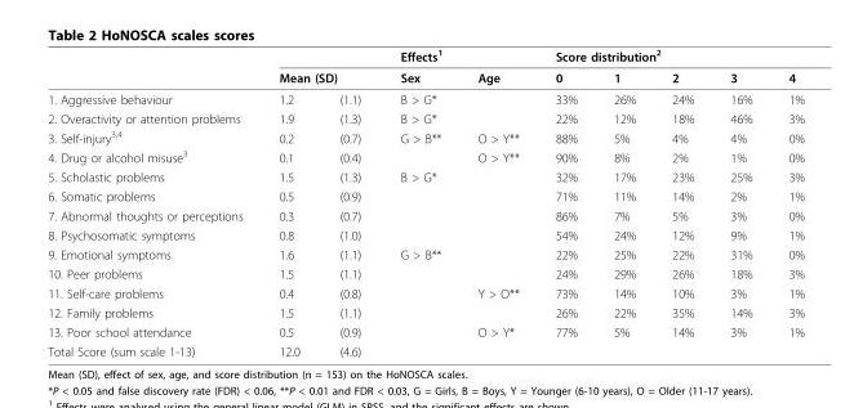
<table><thead><tr><td rowspan="2"></td><td></td><td></td><td colspan="2">Effects<sup>1</sup></td><td colspan="5">Score distribution<sup>2</sup></td></tr><tr><td colspan="2">Mean (SD)</td><td>Sex</td><td>Age</td><td>0</td><td>1</td><td>2</td><td>3</td><td>4</td></tr></thead><tbody><tr><td>1. Aggressive behaviour</td><td>1.2</td><td>(1.1)</td><td>B &gt; G*</td><td></td><td>33%</td><td>26%</td><td>24%</td><td>16%</td><td>1%</td></tr><tr><td>2. Overactivity or attention problems</td><td>1.9</td><td>(1.3)</td><td>B &gt; G*</td><td></td><td>22%</td><td>12%</td><td>18%</td><td>46%</td><td>3%</td></tr><tr><td>3. Self-injury<sup>3,4</sup></td><td>0.2</td><td>(0.7)</td><td>G &gt; B**</td><td>O &gt; Y**</td><td>88%</td><td>5%</td><td>4%</td><td>4%</td><td>0%</td></tr><tr><td>4. Drug or alcohol misuse<sup>3</sup></td><td>0.1</td><td>(0.4)</td><td></td><td>O &gt; Y**</td><td>90%</td><td>8%</td><td>2%</td><td>1%</td><td>0%</td></tr><tr><td>5. Scholastic problems</td><td>1.5</td><td>(1.3)</td><td>B &gt; G*</td><td></td><td>32%</td><td>17%</td><td>23%</td><td>25%</td><td>3%</td></tr><tr><td>6. Somatic problems</td><td>0.5</td><td>(0.9)</td><td></td><td></td><td>71%</td><td>11%</td><td>14%</td><td>2%</td><td>1%</td></tr><tr><td>7. Abnormal thoughts or perceptions</td><td>0.3</td><td>(0.7)</td><td></td><td></td><td>86%</td><td>7%</td><td>5%</td><td>3%</td><td>0%</td></tr><tr><td>8. Psychosomatic symptoms</td><td>0.8</td><td>(1.0)</td><td></td><td></td><td>54%</td><td>24%</td><td>12%</td><td>9%</td><td>1%</td></tr><tr><td>9. Emotional symptoms</td><td>1.6</td><td>(1.1)</td><td>G &gt; B**</td><td></td><td>22%</td><td>25%</td><td>22%</td><td>31%</td><td>0%</td></tr><tr><td>10. Peer problems</td><td>1.5</td><td>(1.1)</td><td></td><td></td><td>24%</td><td>29%</td><td>26%</td><td>18%</td><td>3%</td></tr><tr><td>11. Self-care problems</td><td>0.4</td><td>(0.8)</td><td></td><td>Y &gt; O**</td><td>73%</td><td>14%</td><td>10%</td><td>3%</td><td>1%</td></tr><tr><td>12. Family problems</td><td>1.5</td><td>(1.1)</td><td></td><td></td><td>26%</td><td>22%</td><td>35%</td><td>14%</td><td>3%</td></tr><tr><td>13. Poor school attendance</td><td>0.5</td><td>(0.9)</td><td></td><td>O &gt; Y*</td><td>77%</td><td>5%</td><td>14%</td><td>3%</td><td>1%</td></tr><tr><td>Total Score (sum scale 1-13)</td><td>12.0</td><td>(4.6)</td><td></td><td></td><td></td><td></td><td></td><td></td><td></td></tr></tbody></table>